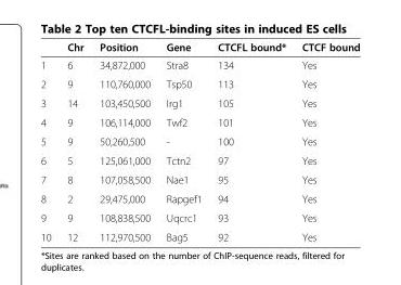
<table><thead><tr><td></td><td>Chr</td><td>Position</td><td>Gene</td><td>CTCFL bound*</td><td>CTCF bound</td></tr></thead><tbody><tr><td>1</td><td>6</td><td>34,872,000</td><td>Stra8</td><td>134</td><td>Yes</td></tr><tr><td>2</td><td>9</td><td>110,760,000</td><td>Tsp50</td><td>113</td><td>Yes</td></tr><tr><td>3</td><td>14</td><td>103,450,500</td><td>Irg1</td><td>105</td><td>Yes</td></tr><tr><td>4</td><td>9</td><td>106,114,000</td><td>Twf2</td><td>101</td><td>Yes</td></tr><tr><td>5</td><td>9</td><td>50,260,500</td><td>-</td><td>100</td><td>Yes</td></tr><tr><td>6</td><td>5</td><td>125,061,000</td><td>Tctn2</td><td>97</td><td>Yes</td></tr><tr><td>7</td><td>8</td><td>107,058,500</td><td>Nae1</td><td>95</td><td>Yes</td></tr><tr><td>8</td><td>2</td><td>29,475,000</td><td>Rapgef1</td><td>94</td><td>Yes</td></tr><tr><td>9</td><td>9</td><td>108,838,500</td><td>Uqcrc1</td><td>93</td><td>Yes</td></tr><tr><td>10</td><td>12</td><td>112,970,500</td><td>Bag5</td><td>92</td><td>Yes</td></tr></tbody></table>